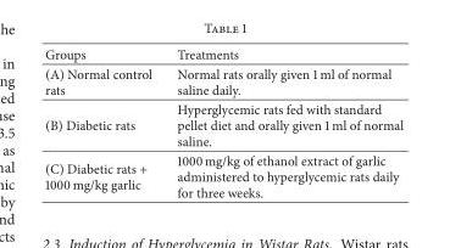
<table><thead><tr><td>Groups</td><td>Treatments</td></tr></thead><tbody><tr><td>(A) Normal control rats</td><td>Normal rats orally given 1 ml of normal saline daily.</td></tr><tr><td>(B) Diabetic rats</td><td>Hyperglycemic rats fed with standard pellet diet and orally given 1 ml of normal saline.</td></tr><tr><td>(C) Diabetic rats + 1000 mg/kg garlic</td><td>1000 mg/kg of ethanol extract of garlic administered to hyperglycemic rats daily for three weeks.</td></tr></tbody></table>